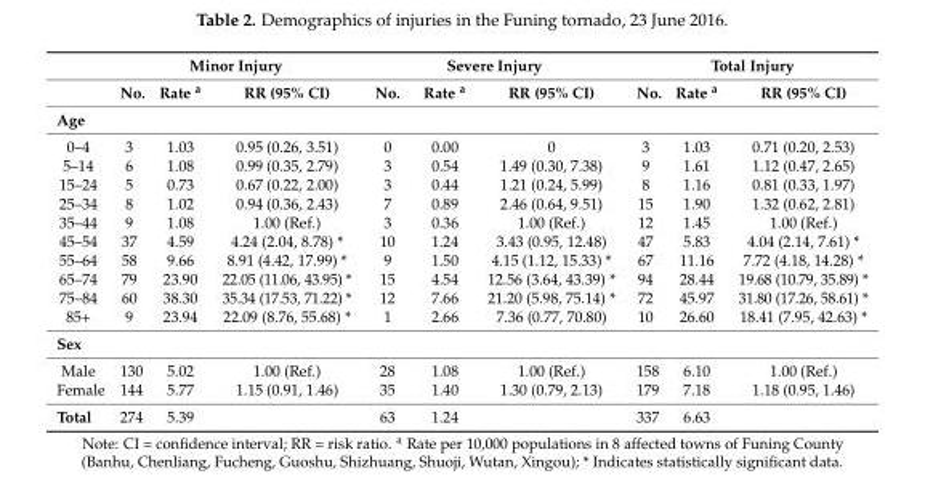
<table><thead><tr><td rowspan="2"></td><td colspan="3">Minor Injury</td><td colspan="3">Severe Injury</td><td colspan="3">Total Injury</td></tr><tr><td>No.</td><td>Rate <sup>a</sup></td><td>RR (95% CI)</td><td>No.</td><td>Rate <sup>a</sup></td><td>RR (95% CI)</td><td>No.</td><td>Rate <sup>a</sup></td><td>RR (95% CI)</td></tr></thead><tbody><tr><td colspan="10">Age</td></tr><tr><td>0–4</td><td>3</td><td>1.03</td><td>0.95 (0.26, 3.51)</td><td>0</td><td>0.00</td><td>0</td><td>3</td><td>1.03</td><td>0.71 (0.20, 2.53)</td></tr><tr><td>5–14</td><td>6</td><td>1.08</td><td>0.99 (0.35, 2.79)</td><td>3</td><td>0.54</td><td>1.49 (0.30, 7.38)</td><td>9</td><td>1.61</td><td>1.12 (0.47, 2.65)</td></tr><tr><td>15–24</td><td>5</td><td>0.73</td><td>0.67 (0.22, 2.00)</td><td>3</td><td>0.44</td><td>1.21 (0.24, 5.99)</td><td>8</td><td>1.16</td><td>0.81 (0.33, 1.97)</td></tr><tr><td>25–34</td><td>8</td><td>1.02</td><td>0.94 (0.36, 2.43)</td><td>7</td><td>0.89</td><td>2.46 (0.64, 9.51)</td><td>15</td><td>1.90</td><td>1.32 (0.62, 2.81)</td></tr><tr><td>35–44</td><td>9</td><td>1.08</td><td>1.00 (Ref.)</td><td>3</td><td>0.36</td><td>1.00 (Ref.)</td><td>12</td><td>1.45</td><td>1.00 (Ref.)</td></tr><tr><td>45–54</td><td>37</td><td>4.59</td><td>4.24 (2.04, 8.78) *</td><td>10</td><td>1.24</td><td>3.43 (0.95, 12.48)</td><td>47</td><td>5.83</td><td>4.04 (2.14, 7.61) *</td></tr><tr><td>55–64</td><td>58</td><td>9.66</td><td>8.91 (4.42, 17.99) *</td><td>9</td><td>1.50</td><td>4.15 (1.12, 15.33) *</td><td>67</td><td>11.16</td><td>7.72 (4.18, 14.28) *</td></tr><tr><td>65–74</td><td>79</td><td>23.90</td><td>22.05 (11.06, 43.95) *</td><td>15</td><td>4.54</td><td>12.56 (3.64, 43.39) *</td><td>94</td><td>28.44</td><td>19.68 (10.79, 35.89) *</td></tr><tr><td>75–84</td><td>60</td><td>38.30</td><td>35.34 (17.53, 71.22) *</td><td>12</td><td>7.66</td><td>21.20 (5.98, 75.14) *</td><td>72</td><td>45.97</td><td>31.80 (17.26, 58.61) *</td></tr><tr><td>85+</td><td>9</td><td>23.94</td><td>22.09 (8.76, 55.68) *</td><td>1</td><td>2.66</td><td>7.36 (0.77, 70.80)</td><td>10</td><td>26.60</td><td>18.41 (7.95, 42.63) *</td></tr><tr><td colspan="10">Sex</td></tr><tr><td>Male</td><td>130</td><td>5.02</td><td>1.00 (Ref.)</td><td>28</td><td>1.08</td><td>1.00 (Ref.)</td><td>158</td><td>6.10</td><td>1.00 (Ref.)</td></tr><tr><td>Female</td><td>144</td><td>5.77</td><td>1.15 (0.91, 1.46)</td><td>35</td><td>1.40</td><td>1.30 (0.79, 2.13)</td><td>179</td><td>7.18</td><td>1.18 (0.95, 1.46)</td></tr><tr><td>Total</td><td>274</td><td>5.39</td><td></td><td>63</td><td>1.24</td><td></td><td>337</td><td>6.63</td><td></td></tr></tbody></table>